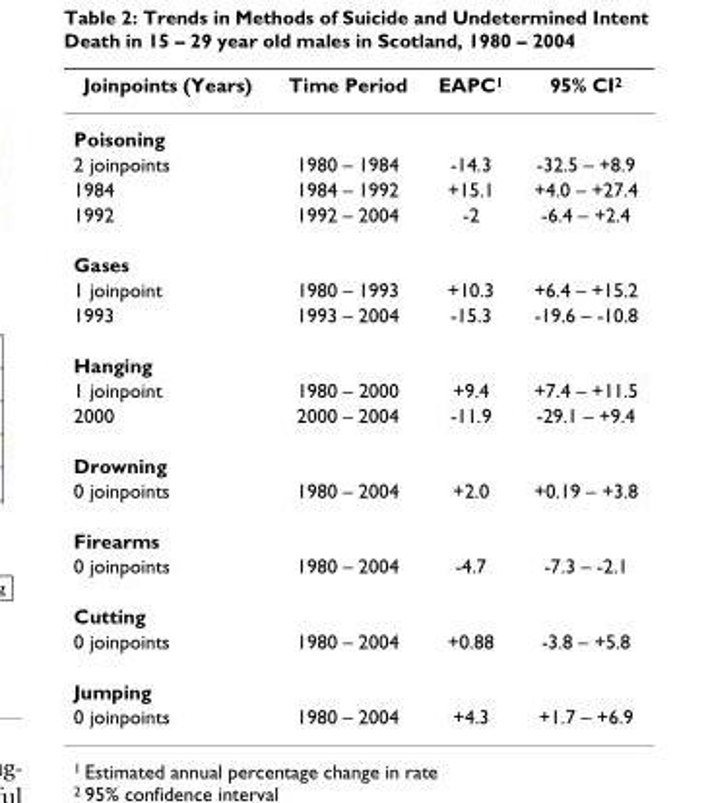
<table><thead><tr><td>Joinpoints (Years)</td><td>Time Period</td><td>EAPC<sup>1</sup></td><td>95% CI<sup>2</sup></td></tr></thead><tbody><tr><td colspan="4">Poisoning</td></tr><tr><td>2 joinpoints</td><td>1980 – 1984</td><td>-14.3</td><td>-32.5 – +8.9</td></tr><tr><td>1984</td><td>1984 – 1992</td><td>+15.1</td><td>+4.0 – +27.4</td></tr><tr><td>1992</td><td>1992 – 2004</td><td>-2</td><td>-6.4 – +2.4</td></tr><tr><td colspan="4">Gases</td></tr><tr><td>1 joinpoint</td><td>1980 – 1993</td><td>+10.3</td><td>+6.4 – +15.2</td></tr><tr><td>1993</td><td>1993 – 2004</td><td>-15.3</td><td>-19.6 – -10.8</td></tr><tr><td colspan="4">Hanging</td></tr><tr><td>1 joinpoint</td><td>1980 – 2000</td><td>+9.4</td><td>+7.4 – +11.5</td></tr><tr><td>2000</td><td>2000 – 2004</td><td>-11.9</td><td>-29.1 – +9.4</td></tr><tr><td colspan="4">Drowning</td></tr><tr><td>0 joinpoints</td><td>1980 – 2004</td><td>+2.0</td><td>+0.19 – +3.8</td></tr><tr><td colspan="4">Firearms</td></tr><tr><td>0 joinpoints</td><td>1980 – 2004</td><td>-4.7</td><td>-7.3 – -2.1</td></tr><tr><td colspan="4">Cutting</td></tr><tr><td>0 joinpoints</td><td>1980 – 2004</td><td>+0.88</td><td>-3.8 – +5.8</td></tr><tr><td colspan="4">Jumping</td></tr><tr><td>0 joinpoints</td><td>1980 – 2004</td><td>+4.3</td><td>+1.7 – +6.9</td></tr></tbody></table>